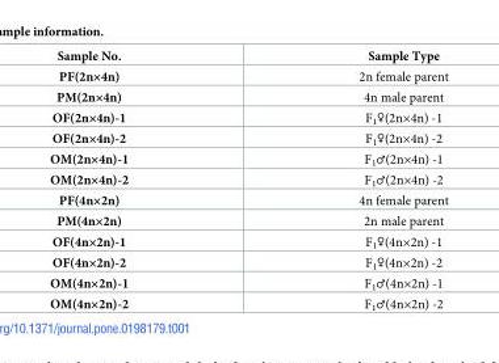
<table><thead><tr><td>Sample No.</td><td>Sample Type</td></tr></thead><tbody><tr><td>PF(2n×4n)</td><td>2n female parent</td></tr><tr><td>PM(2n×4n)</td><td>4n male parent</td></tr><tr><td>OF(2n×4n)-1</td><td>F<sub>1</sub>♀(2n×4n) -1</td></tr><tr><td>OF(2n×4n)-2</td><td>F<sub>1</sub>♀(2n×4n) -2</td></tr><tr><td>OM(2n×4n)-1</td><td>F<sub>1</sub>♂(2n×4n) -1</td></tr><tr><td>OM(2n×4n)-2</td><td>F<sub>1</sub>♂(2n×4n) -2</td></tr><tr><td>PF(4n×2n)</td><td>4n female parent</td></tr><tr><td>PM(4n×2n)</td><td>2n male parent</td></tr><tr><td>OF(4n×2n)-1</td><td>F<sub>1</sub>♀(4n×2n) -1</td></tr><tr><td>OF(4n×2n)-2</td><td>F<sub>1</sub>♀(4n×2n) -2</td></tr><tr><td>OM(4n×2n)-1</td><td>F<sub>1</sub>♂(4n×2n) -1</td></tr><tr><td>OM(4n×2n)-2</td><td>F<sub>1</sub>♂(4n×2n) -2</td></tr></tbody></table>